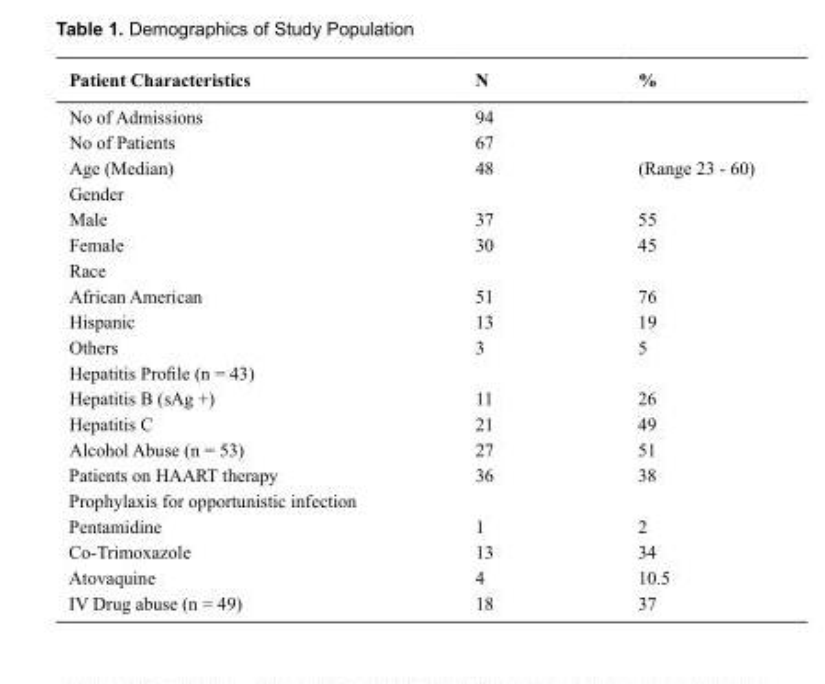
<table><thead><tr><td>Patient Characteristics</td><td>N</td><td>%</td></tr></thead><tbody><tr><td>No of Admissions</td><td>94</td><td></td></tr><tr><td>No of Patients</td><td>67</td><td></td></tr><tr><td>Age (Median)</td><td>48</td><td>(Range 23 - 60)</td></tr><tr><td colspan="3">Gender</td></tr><tr><td>Male</td><td>37</td><td>55</td></tr><tr><td>Female</td><td>30</td><td>45</td></tr><tr><td colspan="3">Race</td></tr><tr><td>African American</td><td>51</td><td>76</td></tr><tr><td>Hispanic</td><td>13</td><td>19</td></tr><tr><td>Others</td><td>3</td><td>5</td></tr><tr><td colspan="3">Hepatitis Profile (n = 43)</td></tr><tr><td>Hepatitis B (sAg +)</td><td>11</td><td>26</td></tr><tr><td>Hepatitis C</td><td>21</td><td>49</td></tr><tr><td>Alcohol Abuse (n = 53)</td><td>27</td><td>51</td></tr><tr><td>Patients on HAART therapy</td><td>36</td><td>38</td></tr><tr><td colspan="3">Prophylaxis for opportunistic infection</td></tr><tr><td>Pentamidine</td><td>1</td><td>2</td></tr><tr><td>Co-Trimoxazole</td><td>13</td><td>34</td></tr><tr><td>Atovaquine</td><td>4</td><td>10.5</td></tr><tr><td>IV Drug abuse (n = 49)</td><td>18</td><td>37</td></tr></tbody></table>